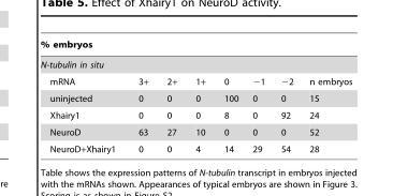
<table><thead><tr><td rowspan="2" colspan="8">% embryos N-tubulin in situ</td></tr><tr></tr><tr><td>mRNA</td><td>3+</td><td>2+</td><td>1+</td><td>0</td><td>−1</td><td>−2</td><td>n embryos</td></tr></thead><tbody><tr><td>uninjected</td><td>0</td><td>0</td><td>0</td><td>100</td><td>0</td><td>0</td><td>15</td></tr><tr><td>Xhairy1</td><td>0</td><td>0</td><td>0</td><td>8</td><td>0</td><td>92</td><td>24</td></tr><tr><td>NeuroD</td><td>63</td><td>27</td><td>10</td><td>0</td><td>0</td><td>0</td><td>52</td></tr><tr><td>NeuroD+Xhairy1</td><td>0</td><td>0</td><td>4</td><td>14</td><td>29</td><td>54</td><td>28</td></tr></tbody></table>